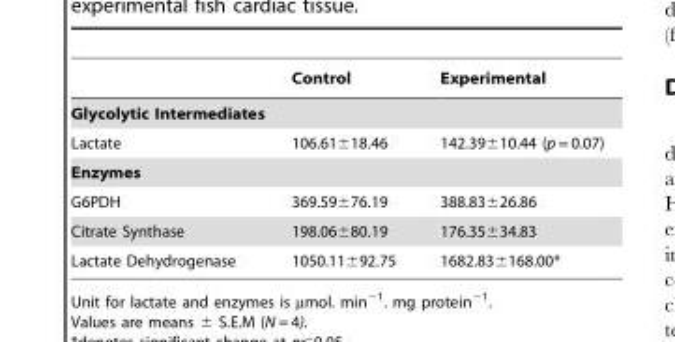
<table><thead><tr><td></td><td>Control</td><td>Experimental</td></tr></thead><tbody><tr><td colspan="3">Glycolytic Intermediates</td></tr><tr><td>Lactate</td><td>106.61±18.46</td><td>142.39±10.44 (p = 0.07)</td></tr><tr><td colspan="3">Enzymes</td></tr><tr><td>G6PDH</td><td>369.59±76.19</td><td>388.83±26.86</td></tr><tr><td>Citrate Synthase</td><td>198.06±80.19</td><td>176.35±34.83</td></tr><tr><td>Lactate Dehydrogenase</td><td>1050.11±92.75</td><td>1682.83±168.00*</td></tr></tbody></table>